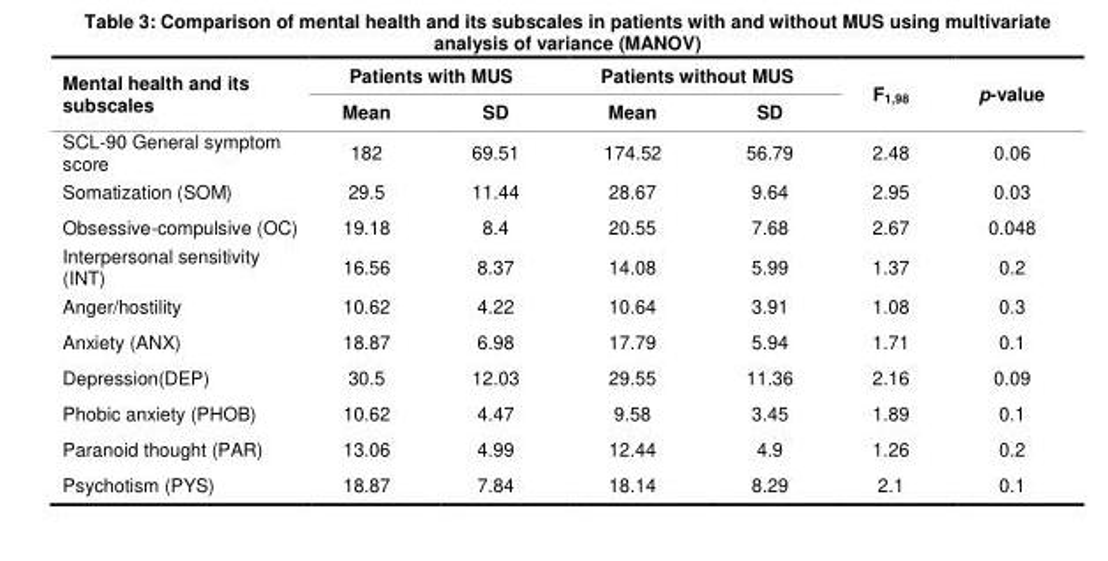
<table><thead><tr><td rowspan="2">Mental health and its subscales</td><td colspan="2">Patients with MUS</td><td colspan="2">Patients without MUS</td><td rowspan="2">F<sub>1,98</sub></td><td rowspan="2">p-value</td></tr><tr><td>Mean</td><td>SD</td><td>Mean</td><td>SD</td></tr></thead><tbody><tr><td>SCL-90 General symptom score</td><td>182</td><td>69.51</td><td>174.52</td><td>56.79</td><td>2.48</td><td>0.06</td></tr><tr><td>Somatization (SOM)</td><td>29.5</td><td>11.44</td><td>28.67</td><td>9.64</td><td>2.95</td><td>0.03</td></tr><tr><td>Obsessive-compulsive (OC)</td><td>19.18</td><td>8.4</td><td>20.55</td><td>7.68</td><td>2.67</td><td>0.048</td></tr><tr><td>Interpersonal sensitivity (INT)</td><td>16.56</td><td>8.37</td><td>14.08</td><td>5.99</td><td>1.37</td><td>0.2</td></tr><tr><td>Anger/hostility</td><td>10.62</td><td>4.22</td><td>10.64</td><td>3.91</td><td>1.08</td><td>0.3</td></tr><tr><td>Anxiety (ANX)</td><td>18.87</td><td>6.98</td><td>17.79</td><td>5.94</td><td>1.71</td><td>0.1</td></tr><tr><td>Depression(DEP)</td><td>30.5</td><td>12.03</td><td>29.55</td><td>11.36</td><td>2.16</td><td>0.09</td></tr><tr><td>Phobic anxiety (PHOB)</td><td>10.62</td><td>4.47</td><td>9.58</td><td>3.45</td><td>1.89</td><td>0.1</td></tr><tr><td>Paranoid thought (PAR)</td><td>13.06</td><td>4.99</td><td>12.44</td><td>4.9</td><td>1.26</td><td>0.2</td></tr><tr><td>Psychotism (PYS)</td><td>18.87</td><td>7.84</td><td>18.14</td><td>8.29</td><td>2.1</td><td>0.1</td></tr></tbody></table>